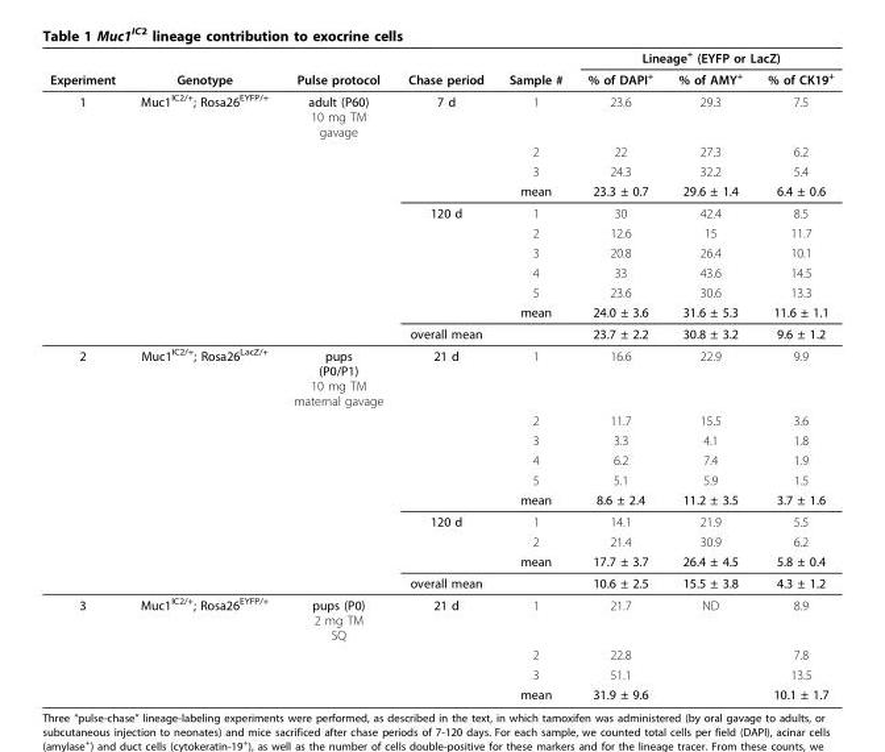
<table><thead><tr><td rowspan="2">Experiment</td><td rowspan="2">Genotype</td><td rowspan="2">Pulse protocol</td><td rowspan="2">Chase period</td><td rowspan="2">Sample #</td><td colspan="3">Lineage<sup>+</sup> (EYFP or LacZ)</td></tr><tr><td>% of DAPI<sup>+</sup></td><td>% of AMY<sup>+</sup></td><td>% of CK19<sup>+</sup></td></tr></thead><tbody><tr><td rowspan="11">1</td><td>Muc1<sup>IC2/+</sup>; Rosa26<sup>EYFP/+</sup></td><td>adult (P60) 10 mg TM gavage</td><td>7 d</td><td>1</td><td>23.6</td><td>29.3</td><td>7.5</td></tr><tr><td></td><td></td><td></td><td>2</td><td>22</td><td>27.3</td><td>6.2</td></tr><tr><td></td><td></td><td></td><td>3</td><td>24.3</td><td>32.2</td><td>5.4</td></tr><tr><td></td><td></td><td></td><td>mean</td><td>23.3 ± 0.7</td><td>29.6 ± 1.4</td><td>6.4 ± 0.6</td></tr><tr><td></td><td></td><td>120 d</td><td>1</td><td>30</td><td>42.4</td><td>8.5</td></tr><tr><td></td><td></td><td></td><td>2</td><td>12.6</td><td>15</td><td>11.7</td></tr><tr><td></td><td></td><td></td><td>3</td><td>20.8</td><td>26.4</td><td>10.1</td></tr><tr><td></td><td></td><td></td><td>4</td><td>33</td><td>43.6</td><td>14.5</td></tr><tr><td></td><td></td><td></td><td>5</td><td>23.6</td><td>30.6</td><td>13.3</td></tr><tr><td></td><td></td><td></td><td>mean</td><td>24.0 ± 3.6</td><td>31.6 ± 5.3</td><td>11.6 ± 1.1</td></tr><tr><td></td><td></td><td>overall mean</td><td></td><td>23.7 ± 2.2</td><td>30.8 ± 3.2</td><td>9.6 ± 1.2</td></tr><tr><td rowspan="10">2</td><td>Muc1<sup>IC2/+</sup>; Rosa26<sup>LacZ/+</sup></td><td>pups (P0/P1) 10 mg TM maternal gavage</td><td>21 d</td><td>1</td><td>16.6</td><td>22.9</td><td>9.9</td></tr><tr><td></td><td></td><td></td><td>2</td><td>11.7</td><td>15.5</td><td>3.6</td></tr><tr><td></td><td></td><td></td><td>3</td><td>3.3</td><td>4.1</td><td>1.8</td></tr><tr><td></td><td></td><td></td><td>4</td><td>6.2</td><td>7.4</td><td>1.9</td></tr><tr><td></td><td></td><td></td><td>5</td><td>5.1</td><td>5.9</td><td>1.5</td></tr><tr><td></td><td></td><td></td><td>mean</td><td>8.6 ± 2.4</td><td>11.2 ± 3.5</td><td>3.7 ± 1.6</td></tr><tr><td></td><td></td><td>120 d</td><td>1</td><td>14.1</td><td>21.9</td><td>5.5</td></tr><tr><td></td><td></td><td></td><td>2</td><td>21.4</td><td>30.9</td><td>6.2</td></tr><tr><td></td><td></td><td></td><td>mean</td><td>17.7 ± 3.7</td><td>26.4 ± 4.5</td><td>5.8 ± 0.4</td></tr><tr><td></td><td></td><td>overall mean</td><td></td><td>10.6 ± 2.5</td><td>15.5 ± 3.8</td><td>4.3 ± 1.2</td></tr><tr><td rowspan="4">3</td><td>Muc1<sup>IC2/+</sup>; Rosa26<sup>EYFP/+</sup></td><td>pups (P0) 2 mg TM SQ</td><td>21 d</td><td>1</td><td>21.7</td><td>ND</td><td>8.9</td></tr><tr><td></td><td></td><td></td><td>2</td><td>22.8</td><td></td><td>7.8</td></tr><tr><td></td><td></td><td></td><td>3</td><td>51.1</td><td></td><td>13.5</td></tr><tr><td></td><td></td><td></td><td>mean</td><td>31.9 ± 9.6</td><td></td><td>10.1 ± 1.7</td></tr></tbody></table>